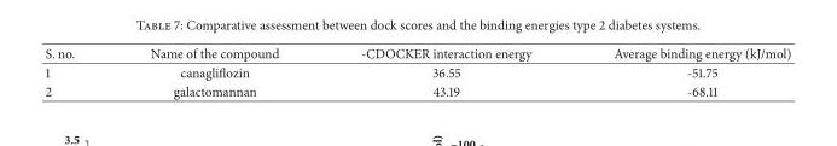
<table><thead><tr><td>S. no.</td><td>Name of the compound</td><td>-CDOCKER interaction energy</td><td>Average binding energy (kJ/mol)</td></tr></thead><tbody><tr><td>1</td><td>canagliflozin</td><td>36.55</td><td>-51.75</td></tr><tr><td>2</td><td>galactomannan</td><td>43.19</td><td>-68.11</td></tr></tbody></table>